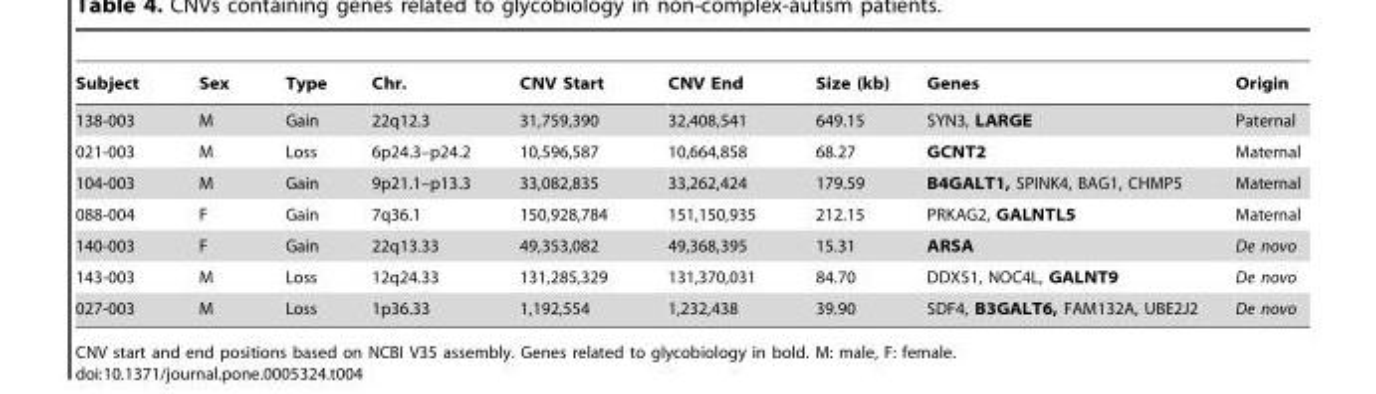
<table><thead><tr><td>Subject</td><td>Sex</td><td>Type</td><td>Chr.</td><td>CNV Start</td><td>CNV End</td><td>Size (kb)</td><td>Genes</td><td>Origin</td></tr></thead><tbody><tr><td>138-003</td><td>M</td><td>Gain</td><td>22q12.3</td><td>31,759,390</td><td>32,408,541</td><td>649.15</td><td>SYN3, LARGE</td><td>Paternal</td></tr><tr><td>021-003</td><td>M</td><td>Loss</td><td>6p24.3–p24.2</td><td>10,596,587</td><td>10,664,858</td><td>68.27</td><td>GCNT2</td><td>Maternal</td></tr><tr><td>104-003</td><td>M</td><td>Gain</td><td>9p21.1–p13.3</td><td>33,082,835</td><td>33,262,424</td><td>179.59</td><td>B4GALT1, SPINK4, BAG1, CHMP5</td><td>Maternal</td></tr><tr><td>088-004</td><td>F</td><td>Gain</td><td>7q36.1</td><td>150,928,784</td><td>151,150,935</td><td>212.15</td><td>PRKAG2, GALNTL5</td><td>Maternal</td></tr><tr><td>140-003</td><td>F</td><td>Gain</td><td>22q13.33</td><td>49,353,082</td><td>49,368,395</td><td>15.31</td><td>ARSA</td><td>De novo</td></tr><tr><td>143-003</td><td>M</td><td>Loss</td><td>12q24.33</td><td>131,285,329</td><td>131,370,031</td><td>84.70</td><td>DDX51, NOC4L, GALNT9</td><td>De novo</td></tr><tr><td>027-003</td><td>M</td><td>Loss</td><td>1p36.33</td><td>1,192,554</td><td>1,232,438</td><td>39.90</td><td>SDF4, B3GALT6, FAM132A, UBE2J2</td><td>De novo</td></tr></tbody></table>